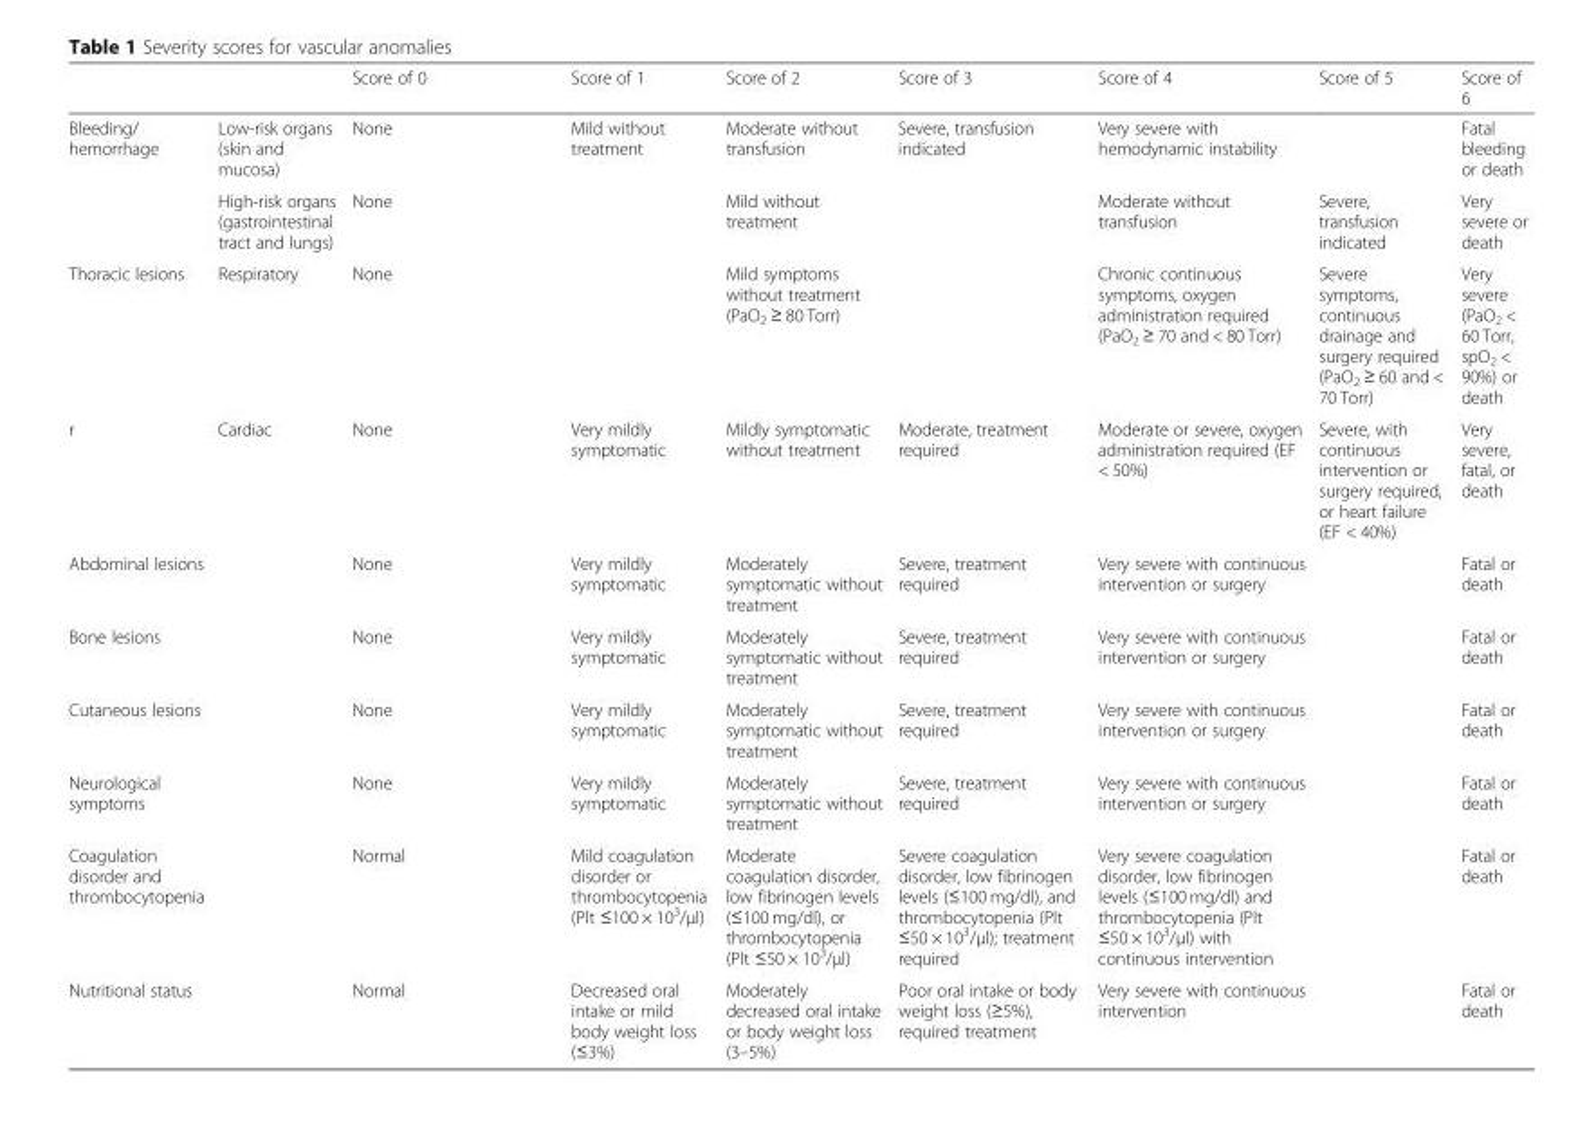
<table><thead><tr><td></td><td></td><td>Score of 0</td><td>Score of 1</td><td>Score of 2</td><td>Score of 3</td><td>Score of 4</td><td>Score of 5</td><td>Score of 6</td></tr></thead><tbody><tr><td rowspan="2">Bleeding/ hemorrhage</td><td>Low-risk organs (skin and mucosa)</td><td>None</td><td>Mild without treatment</td><td>Moderate without transfusion</td><td>Severe, transfusion indicated</td><td>Very severe with hemodynamic instability</td><td></td><td>Fatal bleeding or death</td></tr><tr><td>High-risk organs (gastrointestinal tract and lungs)</td><td>None</td><td></td><td>Mild without treatment</td><td></td><td>Moderate without transfusion</td><td>Severe, transfusion indicated</td><td>Very severe or death</td></tr><tr><td>Thoracic lesions</td><td>Respiratory</td><td>None</td><td></td><td>Mild symptoms without treatment (PaO<sub>2</sub> ≥ 80 Torr)</td><td></td><td>Chronic continuous symptoms, oxygen administration required (PaO<sub>2</sub> ≥ 70 and &lt; 80 Torr)</td><td>Severe symptoms, continuous drainage and surgery required (PaO<sub>2</sub> ≥ 60 and &lt; 70 Torr)</td><td>Very severe (PaO<sub>2</sub> &lt; 60 Torr, spO<sub>2</sub> &lt; 90%) or death</td></tr><tr><td>r</td><td>Cardiac</td><td>None</td><td>Very mildly symptomatic</td><td>Mildly symptomatic without treatment</td><td>Moderate, treatment required</td><td>Moderate or severe, oxygen administration required (EF &lt; 50%)</td><td>Severe, with continuous intervention or surgery required, or heart failure (EF &lt; 40%)</td><td>Very severe, fatal, or death</td></tr><tr><td>Abdominal lesions</td><td></td><td>None</td><td>Very mildly symptomatic</td><td>Moderately symptomatic without treatment</td><td>Severe, treatment required</td><td>Very severe with continuous intervention or surgery</td><td></td><td>Fatal or death</td></tr><tr><td>Bone lesions</td><td></td><td>None</td><td>Very mildly symptomatic</td><td>Moderately symptomatic without treatment</td><td>Severe, treatment required</td><td>Very severe with continuous intervention or surgery</td><td></td><td>Fatal or death</td></tr><tr><td>Cutaneous lesions</td><td></td><td>None</td><td>Very mildly symptomatic</td><td>Moderately symptomatic without treatment</td><td>Severe, treatment required</td><td>Very severe with continuous intervention or surgery</td><td></td><td>Fatal or death</td></tr><tr><td>Neurological symptoms</td><td></td><td>None</td><td>Very mildly symptomatic</td><td>Moderately symptomatic without treatment</td><td>Severe, treatment required</td><td>Very severe with continuous intervention or surgery</td><td></td><td>Fatal or death</td></tr><tr><td>Coagulation disorder and thrombocytopenia</td><td></td><td>Normal</td><td>Mild coagulation disorder or thrombocytopenia (Plt ≤100 × 10<sup>3</sup>/μl)</td><td>Moderate coagulation disorder, low fibrinogen levels (≤100 mg/dl), or thrombocytopenia (Plt ≤50 × 10<sup>3</sup>/μl)</td><td>Severe coagulation disorder, low fibrinogen levels (≤100 mg/dl), and thrombocytopenia (Plt ≤50 × 10<sup>3</sup>/μl); treatment required</td><td>Very severe coagulation disorder, low fibrinogen levels (≤100 mg/dl) and thrombocytopenia (Plt ≤50 × 10<sup>3</sup>/μl) with continuous intervention</td><td></td><td>Fatal or death</td></tr><tr><td>Nutritional status</td><td></td><td>Normal</td><td>Decreased oral intake or mild body weight loss (≤3%)</td><td>Moderately decreased oral intake or body weight loss (3–5%)</td><td>Poor oral intake or body weight loss (≥5%), required treatment</td><td>Very severe with continuous intervention</td><td></td><td>Fatal or death</td></tr></tbody></table>